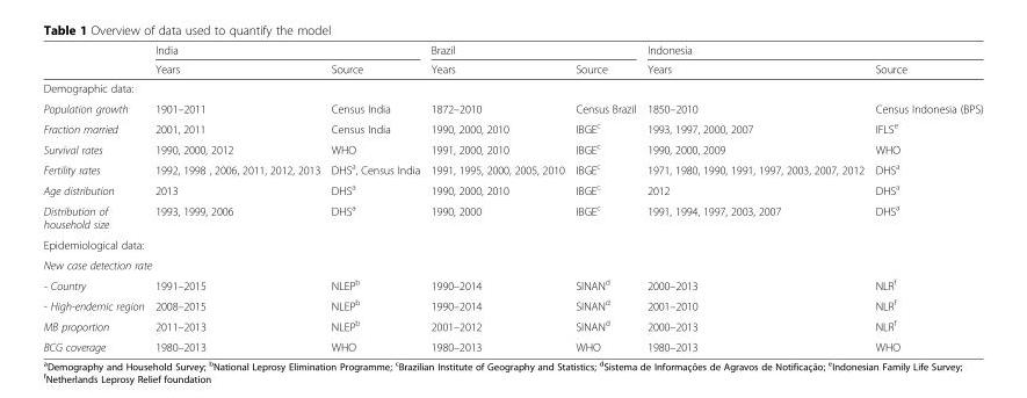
<table><thead><tr><td rowspan="2"></td><td colspan="2">India</td><td colspan="2">Brazil</td><td colspan="2">Indonesia</td></tr><tr><td>Years</td><td>Source</td><td>Years</td><td>Source</td><td>Years</td><td>Source</td></tr></thead><tbody><tr><td colspan="7">Demographic data:</td></tr><tr><td>Population growth</td><td>1901–2011</td><td>Census India</td><td>1872–2010</td><td>Census Brazil</td><td>1850–2010</td><td>Census Indonesia (BPS)</td></tr><tr><td>Fraction married</td><td>2001, 2011</td><td>Census India</td><td>1990, 2000, 2010</td><td>IBGE<sup>c</sup></td><td>1993, 1997, 2000, 2007</td><td>IFLS<sup>e</sup></td></tr><tr><td>Survival rates</td><td>1990, 2000, 2012</td><td>WHO</td><td>1991, 2000, 2010</td><td>IBGE<sup>c</sup></td><td>1990, 2000, 2009</td><td>WHO</td></tr><tr><td>Fertility rates</td><td>1992, 1998 , 2006, 2011, 2012, 2013</td><td>DHS<sup>a</sup>, Census India</td><td>1991, 1995, 2000, 2005, 2010</td><td>IBGE<sup>c</sup></td><td>1971, 1980, 1990, 1991, 1997, 2003, 2007, 2012</td><td>DHS<sup>a</sup></td></tr><tr><td>Age distribution</td><td>2013</td><td>DHS<sup>a</sup></td><td>1990, 2000, 2010</td><td>IBGE<sup>c</sup></td><td>2012</td><td>DHS<sup>a</sup></td></tr><tr><td>Distribution of household size</td><td>1993, 1999, 2006</td><td>DHS<sup>a</sup></td><td>1990, 2000</td><td>IBGE<sup>c</sup></td><td>1991, 1994, 1997, 2003, 2007</td><td>DHS<sup>a</sup></td></tr><tr><td colspan="7">Epidemiological data:</td></tr><tr><td colspan="7">New case detection rate</td></tr><tr><td>- Country</td><td>1991–2015</td><td>NLEP<sup>b</sup></td><td>1990–2014</td><td>SINAN<sup>d</sup></td><td>2000–2013</td><td>NLR<sup>f</sup></td></tr><tr><td>- High-endemic region</td><td>2008–2015</td><td>NLEP<sup>b</sup></td><td>1990–2014</td><td>SINAN<sup>d</sup></td><td>2001–2010</td><td>NLR<sup>f</sup></td></tr><tr><td>MB proportion</td><td>2011–2013</td><td>NLEP<sup>b</sup></td><td>2001–2012</td><td>SINAN<sup>d</sup></td><td>2000–2013</td><td>NLR<sup>f</sup></td></tr><tr><td>BCG coverage</td><td>1980–2013</td><td>WHO</td><td>1980–2013</td><td>WHO</td><td>1980–2013</td><td>WHO</td></tr></tbody></table>